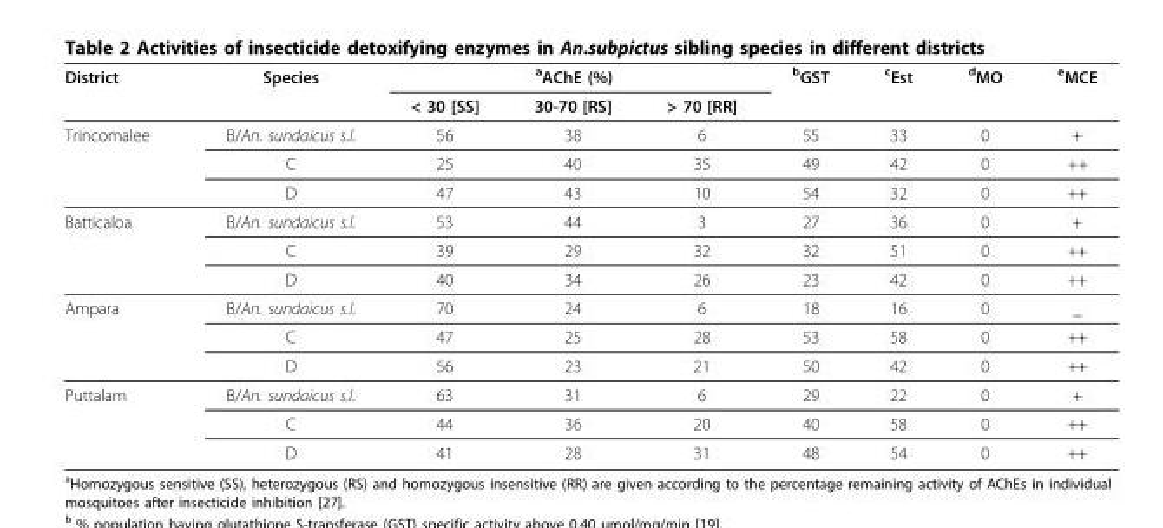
<table><thead><tr><td rowspan="2">District</td><td rowspan="2">Species</td><td colspan="3"><sup>a</sup>AChE (%)</td><td rowspan="2"><sup>b</sup>GST</td><td rowspan="2"><sup>c</sup>Est</td><td rowspan="2"><sup>d</sup>MO</td><td rowspan="2"><sup>e</sup>MCE</td></tr><tr><td>&lt; 30 [SS]</td><td>30-70 [RS]</td><td>&gt; 70 [RR]</td></tr></thead><tbody><tr><td rowspan="3">Trincomalee</td><td>B/An. sundaicus s.l.</td><td>56</td><td>38</td><td>6</td><td>55</td><td>33</td><td>0</td><td>+</td></tr><tr><td>C</td><td>25</td><td>40</td><td>35</td><td>49</td><td>42</td><td>0</td><td>++</td></tr><tr><td>D</td><td>47</td><td>43</td><td>10</td><td>54</td><td>32</td><td>0</td><td>++</td></tr><tr><td rowspan="3">Batticaloa</td><td>B/An. sundaicus s.l.</td><td>53</td><td>44</td><td>3</td><td>27</td><td>36</td><td>0</td><td>+</td></tr><tr><td>C</td><td>39</td><td>29</td><td>32</td><td>32</td><td>51</td><td>0</td><td>++</td></tr><tr><td>D</td><td>40</td><td>34</td><td>26</td><td>23</td><td>42</td><td>0</td><td>++</td></tr><tr><td rowspan="3">Ampara</td><td>B/An. sundaicus s.l.</td><td>70</td><td>24</td><td>6</td><td>18</td><td>16</td><td>0</td><td>_</td></tr><tr><td>C</td><td>47</td><td>25</td><td>28</td><td>53</td><td>58</td><td>0</td><td>++</td></tr><tr><td>D</td><td>56</td><td>23</td><td>21</td><td>50</td><td>42</td><td>0</td><td>++</td></tr><tr><td rowspan="3">Puttalam</td><td>B/An. sundaicus s.l.</td><td>63</td><td>31</td><td>6</td><td>29</td><td>22</td><td>0</td><td>+</td></tr><tr><td>C</td><td>44</td><td>36</td><td>20</td><td>40</td><td>58</td><td>0</td><td>++</td></tr><tr><td>D</td><td>41</td><td>28</td><td>31</td><td>48</td><td>54</td><td>0</td><td>++</td></tr></tbody></table>